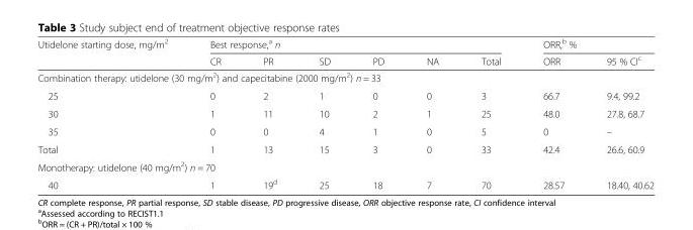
<table><thead><tr><td rowspan="2">Utidelone starting dose, mg/m<sup>2</sup></td><td colspan="6">Best response,<sup>a</sup> n</td><td colspan="2">ORR,<sup>b</sup> %</td></tr><tr><td>CR</td><td>PR</td><td>SD</td><td>PD</td><td>NA</td><td>Total</td><td>ORR</td><td>95 % CI<sup>c</sup></td></tr></thead><tbody><tr><td colspan="9">Combination therapy: utidelone (30 mg/m<sup>2</sup>) and capecitabine (2000 mg/m<sup>2</sup>) n = 33</td></tr><tr><td>25</td><td>0</td><td>2</td><td>1</td><td>0</td><td>0</td><td>3</td><td>66.7</td><td>9.4, 99.2</td></tr><tr><td>30</td><td>1</td><td>11</td><td>10</td><td>2</td><td>1</td><td>25</td><td>48.0</td><td>27.8, 68.7</td></tr><tr><td>35</td><td>0</td><td>0</td><td>4</td><td>1</td><td>0</td><td>5</td><td>0</td><td>–</td></tr><tr><td>Total</td><td>1</td><td>13</td><td>15</td><td>3</td><td>0</td><td>33</td><td>42.4</td><td>26.6, 60.9</td></tr><tr><td colspan="9">Monotherapy: utidelone (40 mg/m<sup>2</sup>) n = 70</td></tr><tr><td>40</td><td>1</td><td>19<sup>d</sup></td><td>25</td><td>18</td><td>7</td><td>70</td><td>28.57</td><td>18.40, 40.62</td></tr></tbody></table>